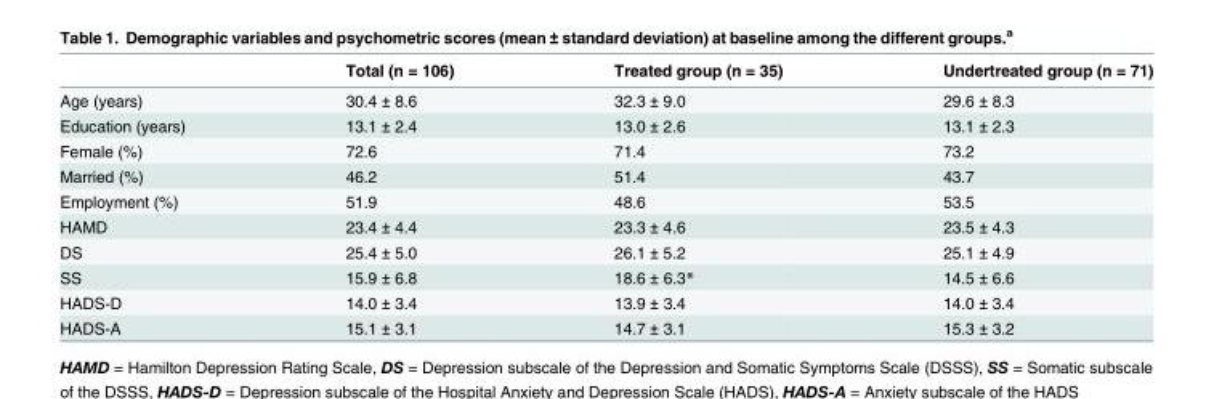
<table><thead><tr><td></td><td>Total (n = 106)</td><td>Treated group (n = 35)</td><td>Undertreated group (n = 71)</td></tr></thead><tbody><tr><td>Age (years)</td><td>30.4 ± 8.6</td><td>32.3 ± 9.0</td><td>29.6 ± 8.3</td></tr><tr><td>Education (years)</td><td>13.1 ± 2.4</td><td>13.0 ± 2.6</td><td>13.1 ± 2.3</td></tr><tr><td>Female (%)</td><td>72.6</td><td>71.4</td><td>73.2</td></tr><tr><td>Married (%)</td><td>46.2</td><td>51.4</td><td>43.7</td></tr><tr><td>Employment (%)</td><td>51.9</td><td>48.6</td><td>53.5</td></tr><tr><td>HAMD</td><td>23.4 ± 4.4</td><td>23.3 ± 4.6</td><td>23.5 ± 4.3</td></tr><tr><td>DS</td><td>25.4 ± 5.0</td><td>26.1 ± 5.2</td><td>25.1 ± 4.9</td></tr><tr><td>SS</td><td>15.9 ± 6.8</td><td>18.6 ± 6.3*</td><td>14.5 ± 6.6</td></tr><tr><td>HADS-D</td><td>14.0 ± 3.4</td><td>13.9 ± 3.4</td><td>14.0 ± 3.4</td></tr><tr><td>HADS-A</td><td>15.1 ± 3.1</td><td>14.7 ± 3.1</td><td>15.3 ± 3.2</td></tr></tbody></table>